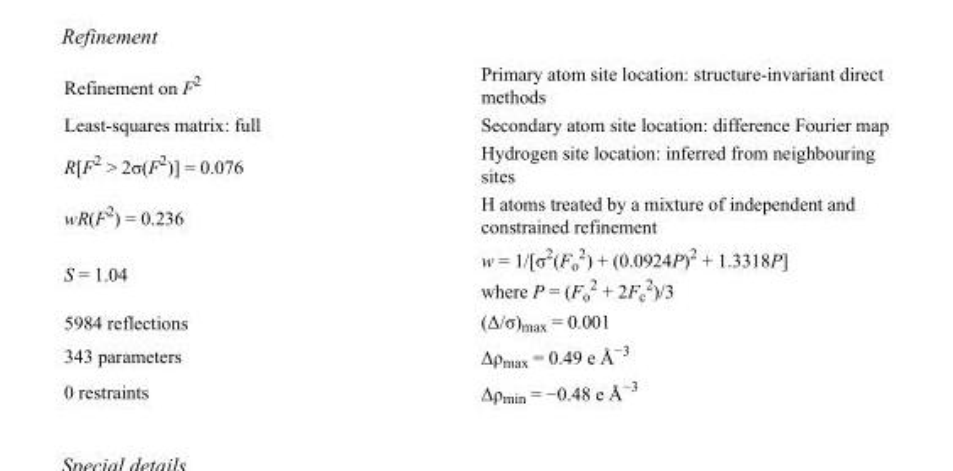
<table><tbody><tr><td>Refinement on F<sup>2</sup></td><td>Primary atom site location: structure-invariant direct methods</td></tr><tr><td>Least-squares matrix: full</td><td>Secondary atom site location: difference Fourier map</td></tr><tr><td>R[F<sup>2</sup> &gt; 2σ(F<sup>2</sup>)] = 0.076</td><td>Hydrogen site location: inferred from neighbouring sites</td></tr><tr><td>wR(F<sup>2</sup>) = 0.236</td><td>H atoms treated by a mixture of independent and constrained refinement</td></tr><tr><td>S = 1.04</td><td>w = 1/[σ<sup>2</sup>(F<sub>o</sub> <sup>2</sup>) + (0.0924P)<sup>2</sup> + 1.3318P] where P = (F<sub>o</sub> <sup>2</sup> + 2F<sub>c</sub> <sup>2</sup>)/3</td></tr><tr><td>5984 reflections</td><td>(Δ/σ)<sub>max</sub> = 0.001</td></tr><tr><td>343 parameters</td><td>Δρ<sub>max</sub> = 0.49 e Å<sup>−3</sup></td></tr><tr><td>0 restraints</td><td>Δρ<sub>min</sub> = −0.48 e Å<sup>−3</sup></td></tr></tbody></table>